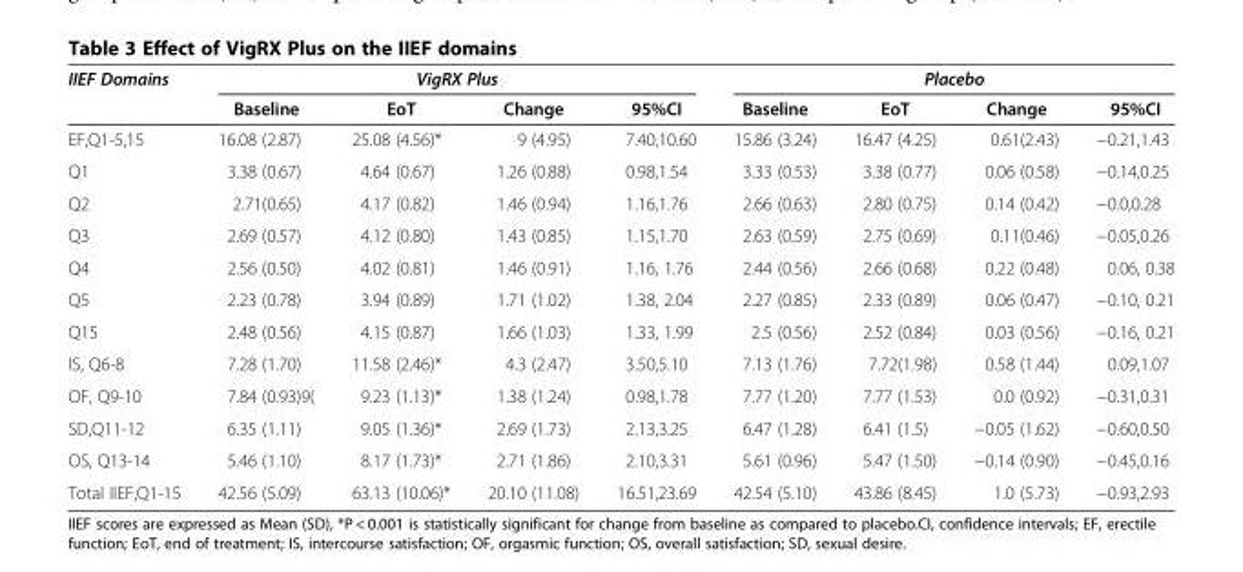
<table><thead><tr><td rowspan="2">IIEF Domains</td><td colspan="4">VigRX Plus</td><td colspan="4">Placebo</td></tr><tr><td>Baseline</td><td>EoT</td><td>Change</td><td>95%CI</td><td>Baseline</td><td>EoT</td><td>Change</td><td>95%CI</td></tr></thead><tbody><tr><td>EF,Q1-5,15</td><td>16.08 (2.87)</td><td>25.08 (4.56)*</td><td>9 (4.95)</td><td>7.40,10.60</td><td>15.86 (3.24)</td><td>16.47 (4.25)</td><td>0.61(2.43)</td><td>−0.21,1.43</td></tr><tr><td>Q1</td><td>3.38 (0.67)</td><td>4.64 (0.67)</td><td>1.26 (0.88)</td><td>0.98,1.54</td><td>3.33 (0.53)</td><td>3.38 (0.77)</td><td>0.06 (0.58)</td><td>−0.14,0.25</td></tr><tr><td>Q2</td><td>2.71(0.65)</td><td>4.17 (0.82)</td><td>1.46 (0.94)</td><td>1.16,1.76</td><td>2.66 (0.63)</td><td>2.80 (0.75)</td><td>0.14 (0.42)</td><td>−0.0,0.28</td></tr><tr><td>Q3</td><td>2.69 (0.57)</td><td>4.12 (0.80)</td><td>1.43 (0.85)</td><td>1.15,1.70</td><td>2.63 (0.59)</td><td>2.75 (0.69)</td><td>0.11(0.46)</td><td>−0.05,0.26</td></tr><tr><td>Q4</td><td>2.56 (0.50)</td><td>4.02 (0.81)</td><td>1.46 (0.91)</td><td>1.16, 1.76</td><td>2.44 (0.56)</td><td>2.66 (0.68)</td><td>0.22 (0.48)</td><td>0.06, 0.38</td></tr><tr><td>Q5</td><td>2.23 (0.78)</td><td>3.94 (0.89)</td><td>1.71 (1.02)</td><td>1.38, 2.04</td><td>2.27 (0.85)</td><td>2.33 (0.89)</td><td>0.06 (0.47)</td><td>−0.10, 0.21</td></tr><tr><td>Q15</td><td>2.48 (0.56)</td><td>4.15 (0.87)</td><td>1.66 (1.03)</td><td>1.33, 1.99</td><td>2.5 (0.56)</td><td>2.52 (0.84)</td><td>0.03 (0.56)</td><td>−0.16, 0.21</td></tr><tr><td>IS, Q6-8</td><td>7.28 (1.70)</td><td>11.58 (2.46)*</td><td>4.3 (2.47)</td><td>3.50,5.10</td><td>7.13 (1.76)</td><td>7.72(1.98)</td><td>0.58 (1.44)</td><td>0.09,1.07</td></tr><tr><td>OF, Q9-10</td><td>7.84 (0.93)9(</td><td>9.23 (1.13)*</td><td>1.38 (1.24)</td><td>0.98,1.78</td><td>7.77 (1.20)</td><td>7.77 (1.53)</td><td>0.0 (0.92)</td><td>−0.31,0.31</td></tr><tr><td>SD,Q11-12</td><td>6.35 (1.11)</td><td>9.05 (1.36)*</td><td>2.69 (1.73)</td><td>2.13,3.25</td><td>6.47 (1.28)</td><td>6.41 (1.5)</td><td>−0.05 (1.62)</td><td>−0.60,0.50</td></tr><tr><td>OS, Q13-14</td><td>5.46 (1.10)</td><td>8.17 (1.73)*</td><td>2.71 (1.86)</td><td>2.10,3.31</td><td>5.61 (0.96)</td><td>5.47 (1.50)</td><td>−0.14 (0.90)</td><td>−0.45,0.16</td></tr><tr><td>Total IIEF,Q1-15</td><td>42.56 (5.09)</td><td>63.13 (10.06)*</td><td>20.10 (11.08)</td><td>16.51,23.69</td><td>42.54 (5.10)</td><td>43.86 (8.45)</td><td>1.0 (5.73)</td><td>−0.93,2.93</td></tr></tbody></table>